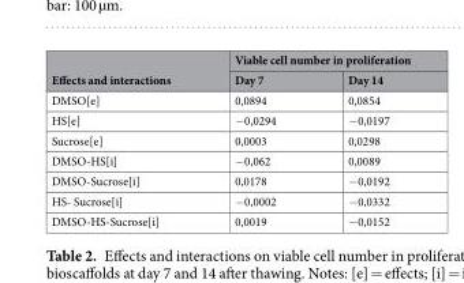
<table><thead><tr><td rowspan="2">Effects and interactions</td><td colspan="2">Viable cell number in proliferation</td></tr><tr><td>Day 7</td><td>Day 14</td></tr></thead><tbody><tr><td>DMSO[e]</td><td>0,0894</td><td>0,0854</td></tr><tr><td>HS[e]</td><td>−0,0294</td><td>−0,0197</td></tr><tr><td>Sucrose[e]</td><td>0,0003</td><td>0,0298</td></tr><tr><td>DMSO-HS[i]</td><td>−0,062</td><td>0,0089</td></tr><tr><td>DMSO-Sucrose[i]</td><td>0,0178</td><td>−0,0192</td></tr><tr><td>HS- Sucrose[i]</td><td>−0,0002</td><td>−0,0332</td></tr><tr><td>DMSO-HS-Sucrose[i]</td><td>0,0019</td><td>−0,0152</td></tr></tbody></table>